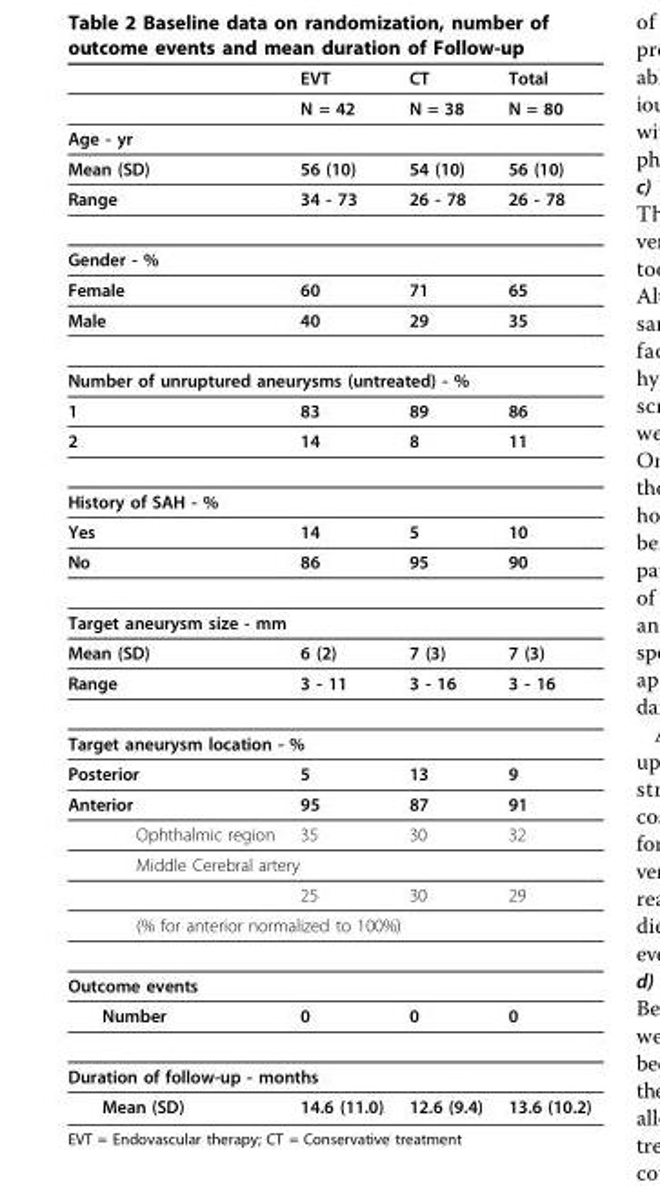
<table><thead><tr><td></td><td>EVT</td><td>CT</td><td>Total</td></tr></thead><tbody><tr><td></td><td>N = 42</td><td>N = 38</td><td>N = 80</td></tr><tr><td colspan="4">Age - yr</td></tr><tr><td>Mean (SD)</td><td>56 (10)</td><td>54 (10)</td><td>56 (10)</td></tr><tr><td>Range</td><td>34 - 73</td><td>26 - 78</td><td>26 - 78</td></tr><tr><td colspan="4">Gender - %</td></tr><tr><td>Female</td><td>60</td><td>71</td><td>65</td></tr><tr><td>Male</td><td>40</td><td>29</td><td>35</td></tr><tr><td colspan="4">Number of unruptured aneurysms (untreated) - %</td></tr><tr><td>1</td><td>83</td><td>89</td><td>86</td></tr><tr><td>2</td><td>14</td><td>8</td><td>11</td></tr><tr><td colspan="4">History of SAH - %</td></tr><tr><td>Yes</td><td>14</td><td>5</td><td>10</td></tr><tr><td>No</td><td>86</td><td>95</td><td>90</td></tr><tr><td colspan="4">Target aneurysm size - mm</td></tr><tr><td>Mean (SD)</td><td>6 (2)</td><td>7 (3)</td><td>7 (3)</td></tr><tr><td>Range</td><td>3 - 11</td><td>3 - 16</td><td>3 - 16</td></tr><tr><td colspan="4">Target aneurysm location - %</td></tr><tr><td>Posterior</td><td>5</td><td>13</td><td>9</td></tr><tr><td>Anterior</td><td>95</td><td>87</td><td>91</td></tr><tr><td>Ophthalmic region</td><td>35</td><td>30</td><td>32</td></tr><tr><td colspan="4">Middle Cerebral artery</td></tr><tr><td></td><td>25</td><td>30</td><td>29</td></tr><tr><td colspan="4">(% for anterior normalized to 100%)</td></tr><tr><td colspan="4">Outcome events</td></tr><tr><td>Number</td><td>0</td><td>0</td><td>0</td></tr><tr><td colspan="4">Duration of follow-up - months</td></tr><tr><td>Mean (SD)</td><td>14.6 (11.0)</td><td>12.6 (9.4)</td><td>13.6 (10.2)</td></tr></tbody></table>